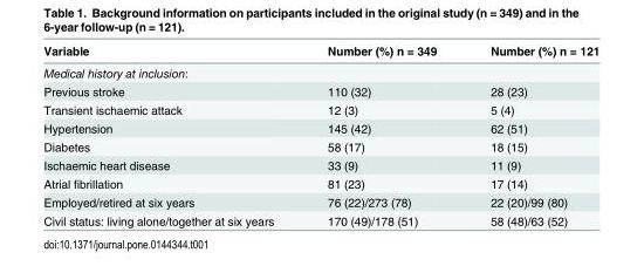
<table><thead><tr><td>Variable</td><td>Number (%) n = 349</td><td>Number (%) n = 121</td></tr></thead><tbody><tr><td colspan="3">Medical history at inclusion:</td></tr><tr><td>Previous stroke</td><td>110 (32)</td><td>28 (23)</td></tr><tr><td>Transient ischaemic attack</td><td>12 (3)</td><td>5 (4)</td></tr><tr><td>Hypertension</td><td>145 (42)</td><td>62 (51)</td></tr><tr><td>Diabetes</td><td>58 (17)</td><td>18 (15)</td></tr><tr><td>Ischaemic heart disease</td><td>33 (9)</td><td>11 (9)</td></tr><tr><td>Atrial fibrillation</td><td>81 (23)</td><td>17 (14)</td></tr><tr><td>Employed/retired at six years</td><td>76 (22)/273 (78)</td><td>22 (20)/99 (80)</td></tr><tr><td>Civil status: living alone/together at six years</td><td>170 (49)/178 (51)</td><td>58 (48)/63 (52)</td></tr></tbody></table>